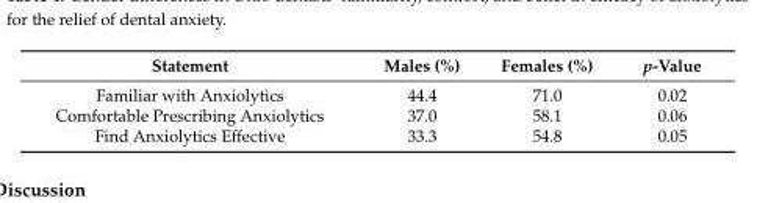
<table><thead><tr><td>Statement</td><td>Males (%)</td><td>Females (%)</td><td>p-Value</td></tr></thead><tbody><tr><td>Familiar with Anxiolytics</td><td>44.4</td><td>71.0</td><td>0.02</td></tr><tr><td>Comfortable Prescribing Anxiolytics</td><td>37.0</td><td>58.1</td><td>0.06</td></tr><tr><td>Find Anxiolytics Effective</td><td>33.3</td><td>54.8</td><td>0.05</td></tr></tbody></table>